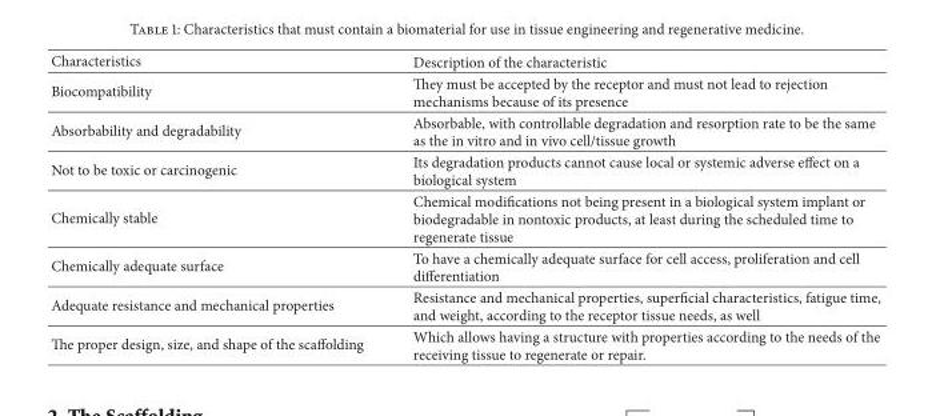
<table><thead><tr><td>Characteristics</td><td>Description of the characteristic</td></tr></thead><tbody><tr><td>Biocompatibility</td><td>They must be accepted by the receptor and must not lead to rejection mechanisms because of its presence</td></tr><tr><td>Absorbability and degradability</td><td>Absorbable, with controllable degradation and resorption rate to be the same as the in vitro and in vivo cell/tissue growth</td></tr><tr><td>Not to be toxic or carcinogenic</td><td>Its degradation products cannot cause local or systemic adverse effect on a biological system</td></tr><tr><td>Chemically stable</td><td>Chemical modifications not being present in a biological system implant or biodegradable in nontoxic products, at least during the scheduled time to regenerate tissue</td></tr><tr><td>Chemically adequate surface</td><td>To have a chemically adequate surface for cell access, proliferation and cell differentiation</td></tr><tr><td>Adequate resistance and mechanical properties</td><td>Resistance and mechanical properties, superficial characteristics, fatigue time, and weight, according to the receptor tissue needs, as well</td></tr><tr><td>The proper design, size, and shape of the scaffolding</td><td>Which allows having a structure with properties according to the needs of the receiving tissue to regenerate or repair.</td></tr></tbody></table>